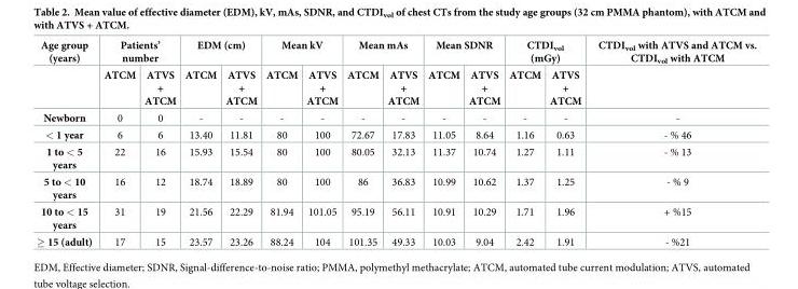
<table><thead><tr><td rowspan="2">Age group (years)</td><td colspan="2">Patients’ number</td><td colspan="2">EDM (cm)</td><td colspan="2">Mean kV</td><td colspan="2">Mean mAs</td><td colspan="2">Mean SDNR</td><td colspan="2">CTDI<sub>vol</sub> (mGy)</td><td rowspan="2">CTDI<sub>vol</sub> with ATVS and ATCM vs. CTDI<sub>vol</sub> with ATCM</td></tr><tr><td>ATCM</td><td>ATVS + ATCM</td><td>ATCM</td><td>ATVS + ATCM</td><td>ATCM</td><td>ATVS + ATCM</td><td>ATCM</td><td>ATVS + ATCM</td><td>ATCM</td><td>ATVS + ATCM</td><td>ATCM</td><td>ATVS + ATCM</td></tr></thead><tbody><tr><td>Newborn</td><td>0</td><td>0</td><td>-</td><td>-</td><td>-</td><td>-</td><td>-</td><td>-</td><td>-</td><td>-</td><td>-</td><td>-</td><td>-</td></tr><tr><td>&lt; 1 year</td><td>6</td><td>6</td><td>13.40</td><td>11.81</td><td>80</td><td>100</td><td>72.67</td><td>17.83</td><td>11.05</td><td>8.64</td><td>1.16</td><td>0.63</td><td>- % 46</td></tr><tr><td>1 to &lt; 5 years</td><td>22</td><td>16</td><td>15.93</td><td>15.54</td><td>80</td><td>100</td><td>80.05</td><td>32.13</td><td>11.37</td><td>10.74</td><td>1.27</td><td>1.11</td><td>- % 13</td></tr><tr><td>5 to &lt; 10 years</td><td>16</td><td>12</td><td>18.74</td><td>18.89</td><td>80</td><td>100</td><td>86</td><td>36.83</td><td>10.99</td><td>10.62</td><td>1.37</td><td>1.25</td><td>- % 9</td></tr><tr><td>10 to &lt; 15 years</td><td>31</td><td>19</td><td>21.56</td><td>22.29</td><td>81.94</td><td>101.05</td><td>95.19</td><td>56.11</td><td>10.91</td><td>10.29</td><td>1.71</td><td>1.96</td><td>+ %15</td></tr><tr><td>15 (adult)</td><td>17</td><td>15</td><td>23.57</td><td>23.26</td><td>88.24</td><td>104</td><td>101.35</td><td>49.33</td><td>10.03</td><td>9.04</td><td>2.42</td><td>1.91</td><td>- %21</td></tr></tbody></table>